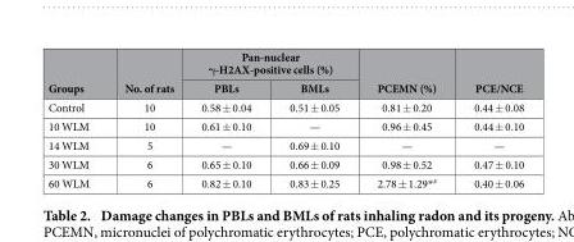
<table><thead><tr><td rowspan="2">Groups</td><td rowspan="2">No. of rats</td><td colspan="2">Pan-nuclear γ-H2AX-positive cells (%)</td><td rowspan="2">PCEMN (%)</td><td rowspan="2">PCE/NCE</td></tr><tr><td>PBLs</td><td>BMLs</td></tr></thead><tbody><tr><td>Control</td><td>10</td><td>0.58 ± 0.04</td><td>0.51 ± 0.05</td><td>0.81 ± 0.20</td><td>0.44 ± 0.08</td></tr><tr><td>10 WLM</td><td>10</td><td>0.61 ± 0.10</td><td>—</td><td>0.96 ± 0.45</td><td>0.44 ± 0.10</td></tr><tr><td>14 WLM</td><td>5</td><td>—</td><td>0.69 ± 0.10</td><td>—</td><td>—</td></tr><tr><td>30 WLM</td><td>6</td><td>0.65 ± 0.10</td><td>0.66 ± 0.09</td><td>0.98 ± 0.52</td><td>0.47 ± 0.10</td></tr><tr><td>60 WLM</td><td>6</td><td>0.82 ± 0.10</td><td>0.83 ± 0.25</td><td>2.78 ± 1.29* <sup>#</sup></td><td>0.40 ± 0.06</td></tr></tbody></table>